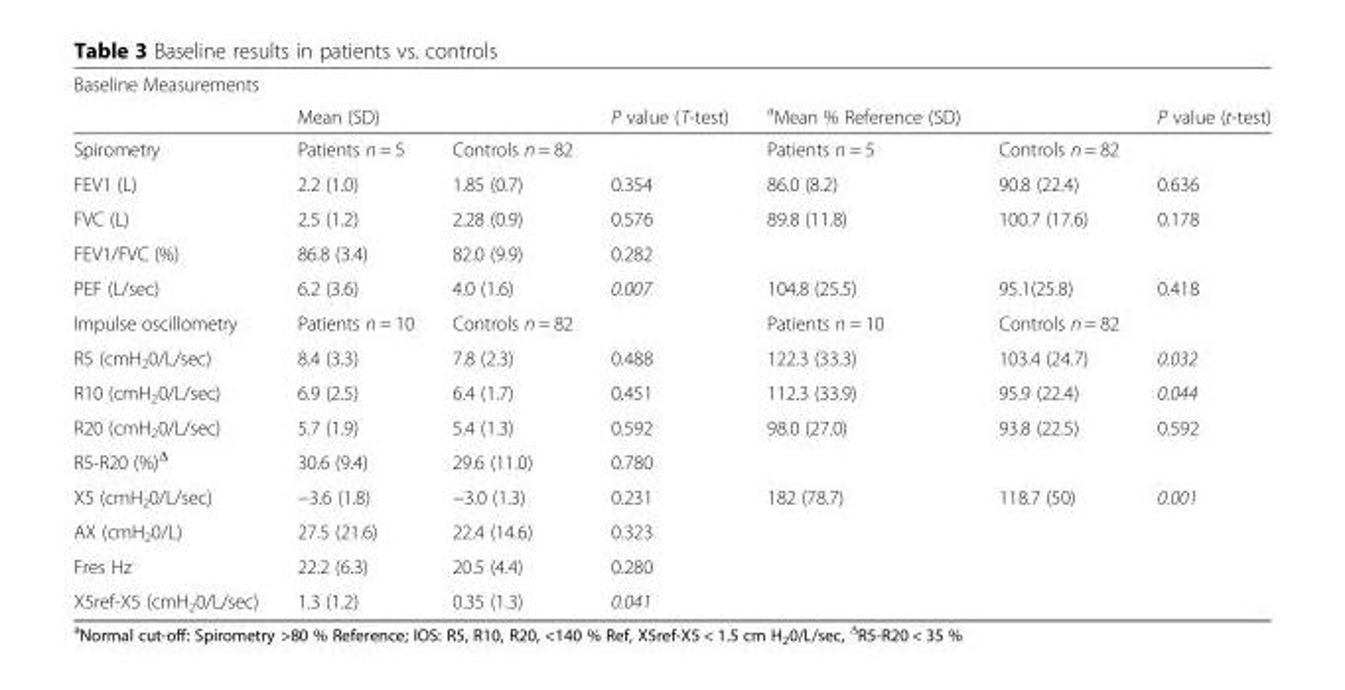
<table><thead><tr><td rowspan="2">Baseline Measurements</td><td rowspan="2">Mean (SD)</td><td rowspan="2"></td><td rowspan="2">P value (T-test)</td><td rowspan="2"><sup>a</sup>Mean % Reference (SD)</td><td rowspan="2"></td><td rowspan="2">P value (t-test)</td></tr><tr></tr></thead><tbody><tr><td>Spirometry</td><td>Patients n = 5</td><td>Controls n = 82</td><td></td><td>Patients n = 5</td><td>Controls n = 82</td><td></td></tr><tr><td>FEV1 (L)</td><td>2.2 (1.0)</td><td>1.85 (0.7)</td><td>0.354</td><td>86.0 (8.2)</td><td>90.8 (22.4)</td><td>0.636</td></tr><tr><td>FVC (L)</td><td>2.5 (1.2)</td><td>2.28 (0.9)</td><td>0.576</td><td>89.8 (11.8)</td><td>100.7 (17.6)</td><td>0.178</td></tr><tr><td>FEV1/FVC (%)</td><td>86.8 (3.4)</td><td>82.0 (9.9)</td><td>0.282</td><td></td><td></td><td></td></tr><tr><td>PEF (L/sec)</td><td>6.2 (3.6)</td><td>4.0 (1.6)</td><td>0.007</td><td>104.8 (25.5)</td><td>95.1(25.8)</td><td>0.418</td></tr><tr><td>Impulse oscillometry</td><td>Patients n = 10</td><td>Controls n = 82</td><td></td><td>Patients n = 10</td><td>Controls n = 82</td><td></td></tr><tr><td>R5 (cmH<sub>2</sub>0/L/sec)</td><td>8.4 (3.3)</td><td>7.8 (2.3)</td><td>0.488</td><td>122.3 (33.3)</td><td>103.4 (24.7)</td><td>0.032</td></tr><tr><td>R10 (cmH<sub>2</sub>0/L/sec)</td><td>6.9 (2.5)</td><td>6.4 (1.7)</td><td>0.451</td><td>112.3 (33.9)</td><td>95.9 (22.4)</td><td>0.044</td></tr><tr><td>R20 (cmH<sub>2</sub>0/L/sec)</td><td>5.7 (1.9)</td><td>5.4 (1.3)</td><td>0.592</td><td>98.0 (27.0)</td><td>93.8 (22.5)</td><td>0.592</td></tr><tr><td>R5-R20 (%)<sup>Δ</sup></td><td>30.6 (9.4)</td><td>29.6 (11.0)</td><td>0.780</td><td></td><td></td><td></td></tr><tr><td>X5 (cmH<sub>2</sub>0/L/sec)</td><td>−3.6 (1.8)</td><td>−3.0 (1.3)</td><td>0.231</td><td>182 (78.7)</td><td>118.7 (50)</td><td>0.001</td></tr><tr><td>AX (cmH<sub>2</sub>0/L)</td><td>27.5 (21.6)</td><td>22.4 (14.6)</td><td>0.323</td><td></td><td></td><td></td></tr><tr><td>Fres Hz</td><td>22.2 (6.3)</td><td>20.5 (4.4)</td><td>0.280</td><td></td><td></td><td></td></tr><tr><td>X5ref-X5 (cmH<sub>2</sub>0/L/sec)</td><td>1.3 (1.2)</td><td>0.35 (1.3)</td><td>0.041</td><td></td><td></td><td></td></tr></tbody></table>